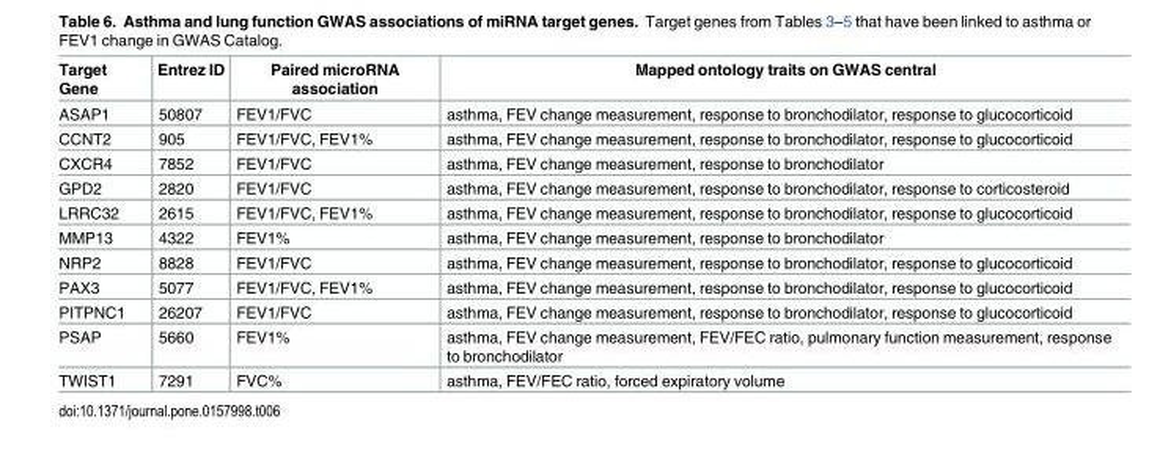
<table><thead><tr><td>Target Gene</td><td>Entrez ID</td><td>Paired microRNA association</td><td>Mapped ontology traits on GWAS central</td></tr></thead><tbody><tr><td>ASAP1</td><td>50807</td><td>FEV1/FVC</td><td>asthma, FEV change measurement, response to bronchodilator, response to glucocorticoid</td></tr><tr><td>CCNT2</td><td>905</td><td>FEV1/FVC, FEV1%</td><td>asthma, FEV change measurement, response to bronchodilator, response to glucocorticoid</td></tr><tr><td>CXCR4</td><td>7852</td><td>FEV1/FVC</td><td>asthma, FEV change measurement, response to bronchodilator</td></tr><tr><td>GPD2</td><td>2820</td><td>FEV1/FVC</td><td>asthma, FEV change measurement, response to bronchodilator, response to corticosteroid</td></tr><tr><td>LRRC32</td><td>2615</td><td>FEV1/FVC, FEV1%</td><td>asthma, FEV change measurement, response to bronchodilator, response to glucocorticoid</td></tr><tr><td>MMP13</td><td>4322</td><td>FEV1%</td><td>asthma, FEV change measurement, response to bronchodilator</td></tr><tr><td>NRP2</td><td>8828</td><td>FEV1/FVC</td><td>asthma, FEV change measurement, response to bronchodilator, response to glucocorticoid</td></tr><tr><td>PAX3</td><td>5077</td><td>FEV1/FVC, FEV1%</td><td>asthma, FEV change measurement, response to bronchodilator, response to glucocorticoid</td></tr><tr><td>PITPNC1</td><td>26207</td><td>FEV1/FVC</td><td>asthma, FEV change measurement, response to bronchodilator, response to glucocorticoid</td></tr><tr><td>PSAP</td><td>5660</td><td>FEV1%</td><td>asthma, FEV change measurement, FEV/FEC ratio, pulmonary function measurement, response to bronchodilator</td></tr><tr><td>TWIST1</td><td>7291</td><td>FVC%</td><td>asthma, FEV/FEC ratio, forced expiratory volume</td></tr></tbody></table>